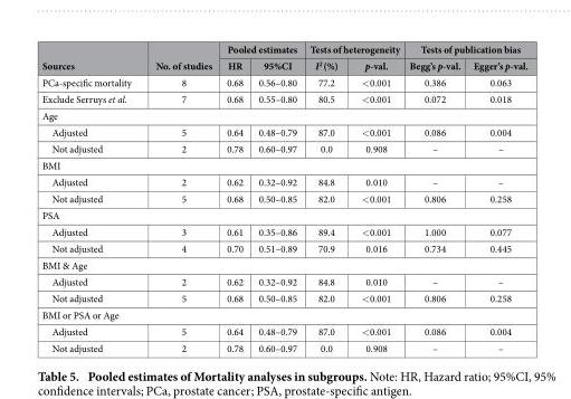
<table><thead><tr><td rowspan="2">Sources</td><td rowspan="2">No. of studies</td><td colspan="2">Pooled estimates</td><td colspan="2">Tests of heterogeneity</td><td colspan="2">Tests of publication bias</td></tr><tr><td>HR</td><td>95%CI</td><td>I<sup>2</sup> (%)</td><td>p-val.</td><td>Begg’s p-val.</td><td>Egger’s p-val.</td></tr></thead><tbody><tr><td>PCa-specific mortality</td><td>8</td><td>0.68</td><td>0.56–0.80</td><td>77.2</td><td>&lt; 0.001</td><td>0.386</td><td>0.063</td></tr><tr><td>Exclude Serruys et al.</td><td>7</td><td>0.68</td><td>0.55–0.80</td><td>80.5</td><td>&lt; 0.001</td><td>0.072</td><td>0.018</td></tr><tr><td colspan="8">Age</td></tr><tr><td>Adjusted</td><td>5</td><td>0.64</td><td>0.48–0.79</td><td>87.0</td><td>&lt; 0.001</td><td>0.086</td><td>0.004</td></tr><tr><td>Not adjusted</td><td>2</td><td>0.78</td><td>0.60–0.97</td><td>0.0</td><td>0.908</td><td>–</td><td>–</td></tr><tr><td colspan="8">BMI</td></tr><tr><td>Adjusted</td><td>2</td><td>0.62</td><td>0.32–0.92</td><td>84.8</td><td>0.010</td><td>–</td><td>–</td></tr><tr><td>Not adjusted</td><td>5</td><td>0.68</td><td>0.50–0.85</td><td>82.0</td><td>&lt; 0.001</td><td>0.806</td><td>0.258</td></tr><tr><td colspan="8">PSA</td></tr><tr><td>Adjusted</td><td>3</td><td>0.61</td><td>0.35–0.86</td><td>89.4</td><td>&lt; 0.001</td><td>1.000</td><td>0.077</td></tr><tr><td>Not adjusted</td><td>4</td><td>0.70</td><td>0.51–0.89</td><td>70.9</td><td>0.016</td><td>0.734</td><td>0.445</td></tr><tr><td colspan="8">BMI &amp; Age</td></tr><tr><td>Adjusted</td><td>2</td><td>0.62</td><td>0.32–0.92</td><td>84.8</td><td>0.010</td><td>–</td><td>–</td></tr><tr><td>Not adjusted</td><td>5</td><td>0.68</td><td>0.50–0.85</td><td>82.0</td><td>&lt; 0.001</td><td>0.806</td><td>0.258</td></tr><tr><td colspan="8">BMI or PSA or Age</td></tr><tr><td>Adjusted</td><td>5</td><td>0.64</td><td>0.48–0.79</td><td>87.0</td><td>&lt; 0.001</td><td>0.086</td><td>0.004</td></tr><tr><td>Not adjusted</td><td>2</td><td>0.78</td><td>0.60–0.97</td><td>0.0</td><td>0.908</td><td>–</td><td>–</td></tr></tbody></table>